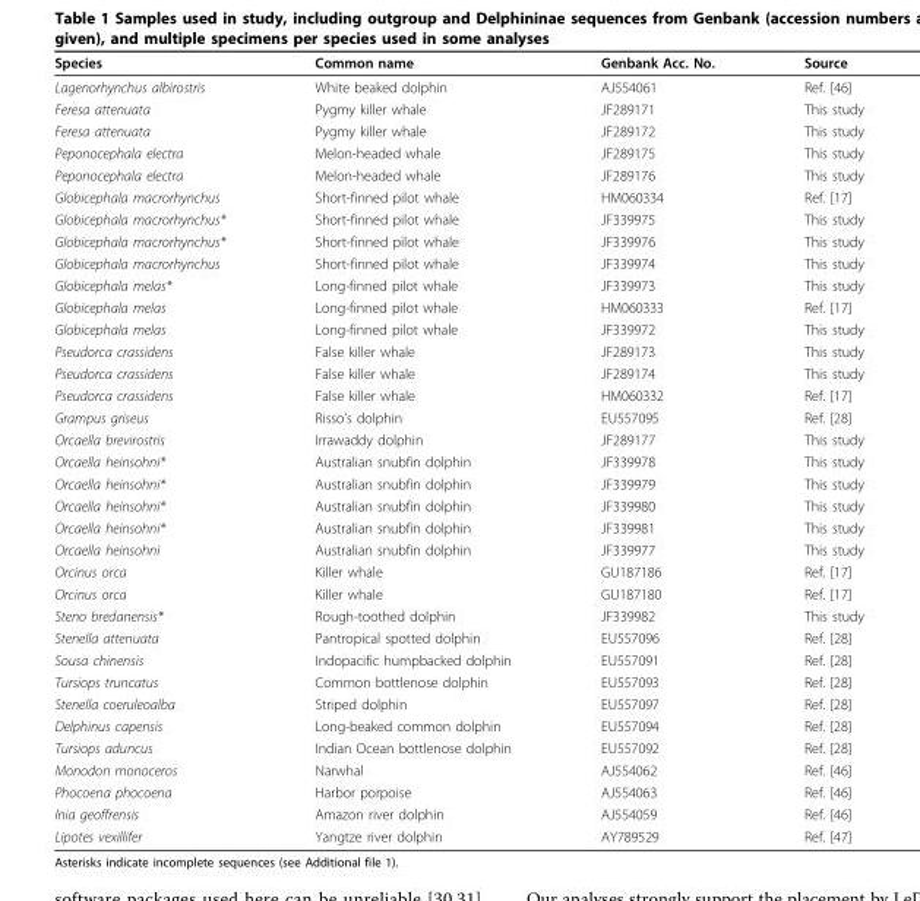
<table><thead><tr><td>Species</td><td>Common name</td><td>Genbank Acc. No.</td><td>Source</td></tr></thead><tbody><tr><td>Lagenorhynchus albirostris</td><td>White beaked dolphin</td><td>AJ554061</td><td>Ref. [46]</td></tr><tr><td>Feresa attenuata</td><td>Pygmy killer whale</td><td>JF289171</td><td>This study</td></tr><tr><td>Feresa attenuata</td><td>Pygmy killer whale</td><td>JF289172</td><td>This study</td></tr><tr><td>Peponocephala electra</td><td>Melon-headed whale</td><td>JF289175</td><td>This study</td></tr><tr><td>Peponocephala electra</td><td>Melon-headed whale</td><td>JF289176</td><td>This study</td></tr><tr><td>Globicephala macrorhynchus</td><td>Short-finned pilot whale</td><td>HM060334</td><td>Ref. [17]</td></tr><tr><td>Globicephala macrorhynchus*</td><td>Short-finned pilot whale</td><td>JF339975</td><td>This study</td></tr><tr><td>Globicephala macrorhynchus*</td><td>Short-finned pilot whale</td><td>JF339976</td><td>This study</td></tr><tr><td>Globicephala macrorhynchus</td><td>Short-finned pilot whale</td><td>JF339974</td><td>This study</td></tr><tr><td>Globicephala melas*</td><td>Long-finned pilot whale</td><td>JF339973</td><td>This study</td></tr><tr><td>Globicephala melas</td><td>Long-finned pilot whale</td><td>HM060333</td><td>Ref. [17]</td></tr><tr><td>Globicephala melas</td><td>Long-finned pilot whale</td><td>JF339972</td><td>This study</td></tr><tr><td>Pseudorca crassidens</td><td>False killer whale</td><td>JF289173</td><td>This study</td></tr><tr><td>Pseudorca crassidens</td><td>False killer whale</td><td>JF289174</td><td>This study</td></tr><tr><td>Pseudorca crassidens</td><td>False killer whale</td><td>HM060332</td><td>Ref. [17]</td></tr><tr><td>Grampus griseus</td><td>Risso’s dolphin</td><td>EU557095</td><td>Ref. [28]</td></tr><tr><td>Orcaella brevirostris</td><td>Irrawaddy dolphin</td><td>JF289177</td><td>This study</td></tr><tr><td>Orcaella heinsohni*</td><td>Australian snubfin dolphin</td><td>JF339978</td><td>This study</td></tr><tr><td>Orcaella heinsohni*</td><td>Australian snubfin dolphin</td><td>JF339979</td><td>This study</td></tr><tr><td>Orcaella heinsohni*</td><td>Australian snubfin dolphin</td><td>JF339980</td><td>This study</td></tr><tr><td>Orcaella heinsohni*</td><td>Australian snubfin dolphin</td><td>JF339981</td><td>This study</td></tr><tr><td>Orcaella heinsohni</td><td>Australian snubfin dolphin</td><td>JF339977</td><td>This study</td></tr><tr><td>Orcinus orca</td><td>Killer whale</td><td>GU187186</td><td>Ref. [17]</td></tr><tr><td>Orcinus orca</td><td>Killer whale</td><td>GU187180</td><td>Ref. [17]</td></tr><tr><td>Steno bredanensis*</td><td>Rough-toothed dolphin</td><td>JF339982</td><td>This study</td></tr><tr><td>Stenella attenuata</td><td>Pantropical spotted dolphin</td><td>EU557096</td><td>Ref. [28]</td></tr><tr><td>Sousa chinensis</td><td>Indopacific humpbacked dolphin</td><td>EU557091</td><td>Ref. [28]</td></tr><tr><td>Tursiops truncatus</td><td>Common bottlenose dolphin</td><td>EU557093</td><td>Ref. [28]</td></tr><tr><td>Stenella coeruleoalba</td><td>Striped dolphin</td><td>EU557097</td><td>Ref. [28]</td></tr><tr><td>Delphinus capensis</td><td>Long-beaked common dolphin</td><td>EU557094</td><td>Ref. [28]</td></tr><tr><td>Tursiops aduncus</td><td>Indian Ocean bottlenose dolphin</td><td>EU557092</td><td>Ref. [28]</td></tr><tr><td>Monodon monoceros</td><td>Narwhal</td><td>AJ554062</td><td>Ref. [46]</td></tr><tr><td>Phocoena phocoena</td><td>Harbor porpoise</td><td>AJ554063</td><td>Ref. [46]</td></tr><tr><td>Inia geoffrensis</td><td>Amazon river dolphin</td><td>AJ554059</td><td>Ref. [46]</td></tr><tr><td>Lipotes vexillifer</td><td>Yangtze river dolphin</td><td>AY789529</td><td>Ref. [47]</td></tr></tbody></table>